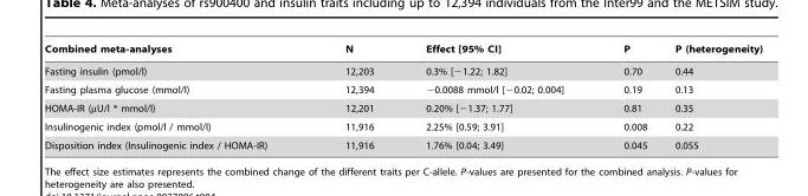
<table><thead><tr><td>Combined meta-analyses</td><td>N</td><td>Effect [95% CI]</td><td>P</td><td>P (heterogeneity)</td></tr></thead><tbody><tr><td>Fasting insulin (pmol/l)</td><td>12,203</td><td>0.3% [−1.22; 1.82]</td><td>0.70</td><td>0.44</td></tr><tr><td>Fasting plasma glucose (mmol/l)</td><td>12,394</td><td>−0.0088 mmol/l [−0.02; 0.004]</td><td>0.19</td><td>0.13</td></tr><tr><td>HOMA-IR (µU/l * mmol/l)</td><td>12,201</td><td>0.20% [−1.37; 1.77]</td><td>0.81</td><td>0.35</td></tr><tr><td>Insulinogenic index (pmol/l / mmol/l)</td><td>11,916</td><td>2.25% [0.59; 3.91]</td><td>0.008</td><td>0.22</td></tr><tr><td>Disposition index (Insulinogenic index / HOMA-IR)</td><td>11,916</td><td>1.76% [0.04; 3.49]</td><td>0.045</td><td>0.055</td></tr></tbody></table>